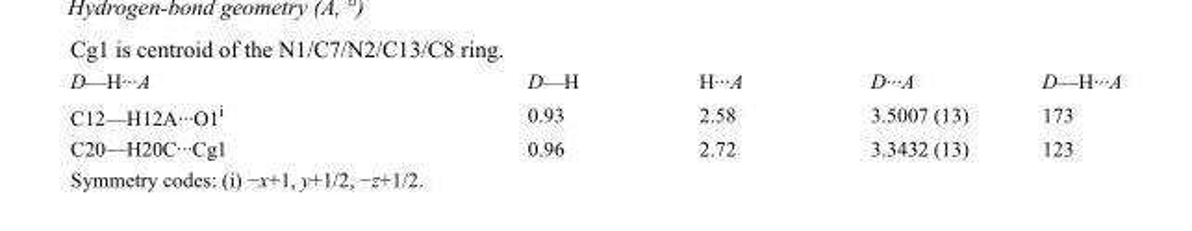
<table><tbody><tr><td>D—H···A</td><td>D—H</td><td>H···A</td><td>D···A</td><td>D—H···A</td></tr><tr><td>C12—H12A···O1<sup>i</sup></td><td>0.93</td><td>2.58</td><td>3.5007 (13)</td><td>173</td></tr><tr><td>C20—H20C···Cg1</td><td>0.96</td><td>2.72</td><td>3.3432 (13)</td><td>123</td></tr></tbody></table>